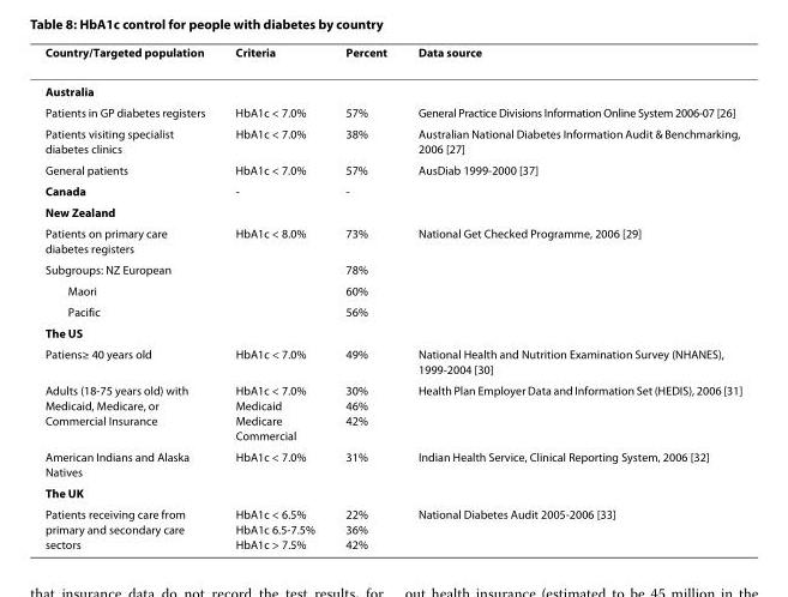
<table><thead><tr><td>Country/Targeted population</td><td>Criteria</td><td>Percent</td><td>Data source</td></tr></thead><tbody><tr><td colspan="4">Australia</td></tr><tr><td>Patients in GP diabetes registers</td><td>HbA1c &lt; 7.0%</td><td>57%</td><td>General Practice Divisions Information Online System 2006-07 [26]</td></tr><tr><td>Patients visiting specialist diabetes clinics</td><td>HbA1c &lt; 7.0%</td><td>38%</td><td>Australian National Diabetes Information Audit &amp; Benchmarking, 2006 [27]</td></tr><tr><td>General patients</td><td>HbA1c &lt; 7.0%</td><td>57%</td><td>AusDiab 1999-2000 [37]</td></tr><tr><td>Canada</td><td>-</td><td>-</td><td></td></tr><tr><td colspan="4">New Zealand</td></tr><tr><td>Patients on primary care diabetes registers</td><td>HbA1c &lt; 8.0%</td><td>73%</td><td>National Get Checked Programme, 2006 [29]</td></tr><tr><td>Subgroups: NZ European</td><td></td><td>78%</td><td></td></tr><tr><td>Maori</td><td></td><td>60%</td><td></td></tr><tr><td>Pacific</td><td></td><td>56%</td><td></td></tr><tr><td colspan="4">The US</td></tr><tr><td>Patiens≥ 40 years old</td><td>HbA1c &lt; 7.0%</td><td>49%</td><td>National Health and Nutrition Examination Survey (NHANES), 1999-2004 [30]</td></tr><tr><td>Adults (18-75 years old) with Medicaid, Medicare, or Commercial Insurance</td><td>HbA1c &lt; 7.0% Medicaid Medicare Commercial</td><td>30% 46% 42%</td><td>Health Plan Employer Data and Information Set (HEDIS), 2006 [31]</td></tr><tr><td>American Indians and Alaska Natives</td><td>HbA1c &lt; 7.0%</td><td>31%</td><td>Indian Health Service, Clinical Reporting System, 2006 [32]</td></tr><tr><td colspan="4">The UK</td></tr><tr><td>Patients receiving care from primary and secondary care sectors</td><td>HbA1c &lt; 6.5% HbA1c 6.5-7.5% HbA1c &gt; 7.5%</td><td>22% 36% 42%</td><td>National Diabetes Audit 2005-2006 [33]</td></tr></tbody></table>